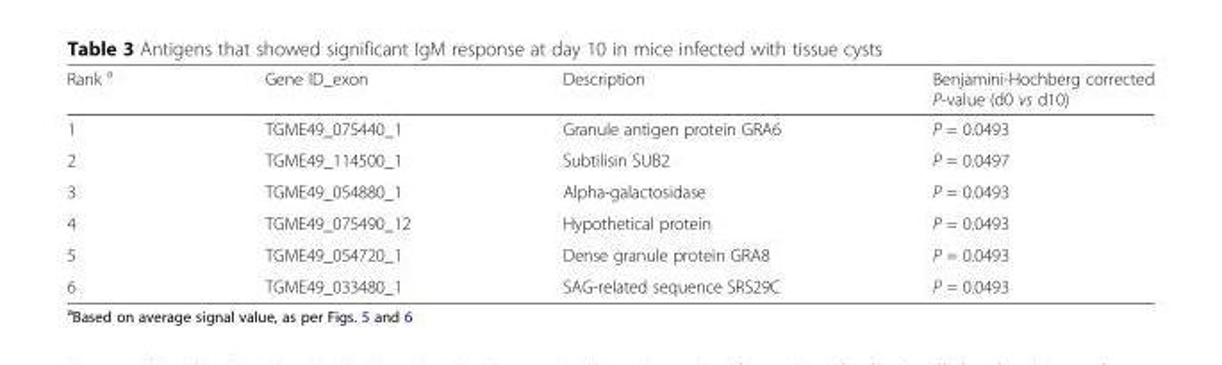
<table><thead><tr><td>Rank <sup>a</sup></td><td>Gene ID_exon</td><td>Description</td><td>Benjamini-Hochberg corrected P-value (d0 vs d10)</td></tr></thead><tbody><tr><td>1</td><td>TGME49_075440_1</td><td>Granule antigen protein GRA6</td><td>P = 0.0493</td></tr><tr><td>2</td><td>TGME49_114500_1</td><td>Subtilisin SUB2</td><td>P = 0.0497</td></tr><tr><td>3</td><td>TGME49_054880_1</td><td>Alpha-galactosidase</td><td>P = 0.0493</td></tr><tr><td>4</td><td>TGME49_075490_12</td><td>Hypothetical protein</td><td>P = 0.0493</td></tr><tr><td>5</td><td>TGME49_054720_1</td><td>Dense granule protein GRA8</td><td>P = 0.0493</td></tr><tr><td>6</td><td>TGME49_033480_1</td><td>SAG-related sequence SRS29C</td><td>P = 0.0493</td></tr></tbody></table>